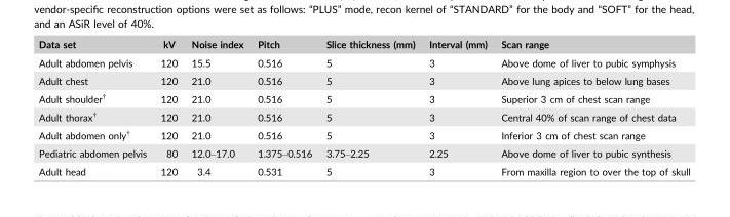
<table><thead><tr><td>Data set</td><td>kV</td><td>Noise index</td><td>Pitch</td><td>Slice thickness (mm)</td><td>Interval (mm)</td><td>Scan range</td></tr></thead><tbody><tr><td>Adult abdomen pelvis</td><td>120</td><td>15.5</td><td>0.516</td><td>5</td><td>3</td><td>Above dome of liver to pubic symphysis</td></tr><tr><td>Adult chest</td><td>120</td><td>21.0</td><td>0.516</td><td>5</td><td>3</td><td>Above lung apices to below lung bases</td></tr><tr><td>Adult shoulder<sup>†</sup></td><td>120</td><td>21.0</td><td>0.516</td><td>5</td><td>3</td><td>Superior 3 cm of chest scan range</td></tr><tr><td>Adult thorax<sup>†</sup></td><td>120</td><td>21.0</td><td>0.516</td><td>5</td><td>3</td><td>Central 40% of scan range of chest data</td></tr><tr><td>Adult abdomen only<sup>†</sup></td><td>120</td><td>21.0</td><td>0.516</td><td>5</td><td>3</td><td>Inferior 3 cm of chest scan range</td></tr><tr><td>Pediatric abdomen pelvis</td><td>80</td><td>12.0–17.0</td><td>1.375–0.516</td><td>3.75–2.25</td><td>2.25</td><td>Above dome of liver to pubic synthesis</td></tr><tr><td>Adult head</td><td>120</td><td>3.4</td><td>0.531</td><td>5</td><td>3</td><td>From maxilla region to over the top of skull</td></tr></tbody></table>